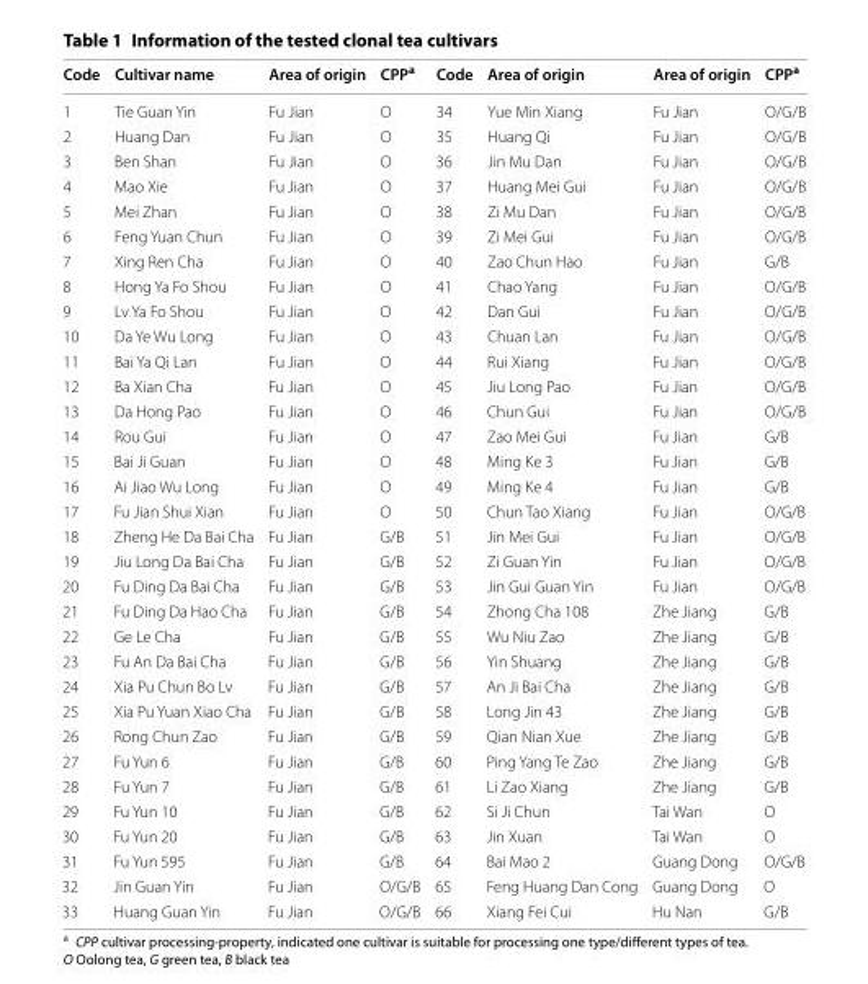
<table><thead><tr><td>Code</td><td>Cultivar name</td><td>Area of origin</td><td>CPP<sup>a</sup></td><td>Code</td><td>Area of origin</td><td>Area of origin</td><td>CPP<sup>a</sup></td></tr></thead><tbody><tr><td>1</td><td>Tie Guan Yin</td><td>Fu Jian</td><td>O</td><td>34</td><td>Yue Min Xiang</td><td>Fu Jian</td><td>O/G/B</td></tr><tr><td>2</td><td>Huang Dan</td><td>Fu Jian</td><td>O</td><td>35</td><td>Huang Qi</td><td>Fu Jian</td><td>O/G/B</td></tr><tr><td>3</td><td>Ben Shan</td><td>Fu Jian</td><td>O</td><td>36</td><td>Jin Mu Dan</td><td>Fu Jian</td><td>O/G/B</td></tr><tr><td>4</td><td>Mao Xie</td><td>Fu Jian</td><td>O</td><td>37</td><td>Huang Mei Gui</td><td>Fu Jian</td><td>O/G/B</td></tr><tr><td>5</td><td>Mei Zhan</td><td>Fu Jian</td><td>O</td><td>38</td><td>Zi Mu Dan</td><td>Fu Jian</td><td>O/G/B</td></tr><tr><td>6</td><td>Feng Yuan Chun</td><td>Fu Jian</td><td>O</td><td>39</td><td>Zi Mei Gui</td><td>Fu Jian</td><td>O/G/B</td></tr><tr><td>7</td><td>Xing Ren Cha</td><td>Fu Jian</td><td>O</td><td>40</td><td>Zao Chun Hao</td><td>Fu Jian</td><td>G/B</td></tr><tr><td>8</td><td>Hong Ya Fo Shou</td><td>Fu Jian</td><td>O</td><td>41</td><td>Chao Yang</td><td>Fu Jian</td><td>O/G/B</td></tr><tr><td>9</td><td>Lv Ya Fo Shou</td><td>Fu Jian</td><td>O</td><td>42</td><td>Dan Gui</td><td>Fu Jian</td><td>O/G/B</td></tr><tr><td>10</td><td>Da Ye Wu Long</td><td>Fu Jian</td><td>O</td><td>43</td><td>Chuan Lan</td><td>Fu Jian</td><td>O/G/B</td></tr><tr><td>11</td><td>Bai Ya Qi Lan</td><td>Fu Jian</td><td>O</td><td>44</td><td>Rui Xiang</td><td>Fu Jian</td><td>O/G/B</td></tr><tr><td>12</td><td>Ba Xian Cha</td><td>Fu Jian</td><td>O</td><td>45</td><td>Jiu Long Pao</td><td>Fu Jian</td><td>O/G/B</td></tr><tr><td>13</td><td>Da Hong Pao</td><td>Fu Jian</td><td>O</td><td>46</td><td>Chun Gui</td><td>Fu Jian</td><td>O/G/B</td></tr><tr><td>14</td><td>Rou Gui</td><td>Fu Jian</td><td>O</td><td>47</td><td>Zao Mei Gui</td><td>Fu Jian</td><td>G/B</td></tr><tr><td>15</td><td>Bai Ji Guan</td><td>Fu Jian</td><td>O</td><td>48</td><td>Ming Ke 3</td><td>Fu Jian</td><td>G/B</td></tr><tr><td>16</td><td>Ai Jiao Wu Long</td><td>Fu Jian</td><td>O</td><td>49</td><td>Ming Ke 4</td><td>Fu Jian</td><td>G/B</td></tr><tr><td>17</td><td>Fu Jian Shui Xian</td><td>Fu Jian</td><td>O</td><td>50</td><td>Chun Tao Xiang</td><td>Fu Jian</td><td>O/G/B</td></tr><tr><td>18</td><td>Zheng He Da Bai Cha</td><td>Fu Jian</td><td>G/B</td><td>51</td><td>Jin Mei Gui</td><td>Fu Jian</td><td>O/G/B</td></tr><tr><td>19</td><td>Jiu Long Da Bai Cha</td><td>Fu Jian</td><td>G/B</td><td>52</td><td>Zi Guan Yin</td><td>Fu Jian</td><td>O/G/B</td></tr><tr><td>20</td><td>Fu Ding Da Bai Cha</td><td>Fu Jian</td><td>G/B</td><td>53</td><td>Jin Gui Guan Yin</td><td>Fu Jian</td><td>O/G/B</td></tr><tr><td>21</td><td>Fu Ding Da Hao Cha</td><td>Fu Jian</td><td>G/B</td><td>54</td><td>Zhong Cha 108</td><td>Zhe Jiang</td><td>G/B</td></tr><tr><td>22</td><td>Ge Le Cha</td><td>Fu Jian</td><td>G/B</td><td>55</td><td>Wu Niu Zao</td><td>Zhe Jiang</td><td>G/B</td></tr><tr><td>23</td><td>Fu An Da Bai Cha</td><td>Fu Jian</td><td>G/B</td><td>56</td><td>Yin Shuang</td><td>Zhe Jiang</td><td>G/B</td></tr><tr><td>24</td><td>Xia Pu Chun Bo Lv</td><td>Fu Jian</td><td>G/B</td><td>57</td><td>An Ji Bai Cha</td><td>Zhe Jiang</td><td>G/B</td></tr><tr><td>25</td><td>Xia Pu Yuan Xiao Cha</td><td>Fu Jian</td><td>G/B</td><td>58</td><td>Long Jin 43</td><td>Zhe Jiang</td><td>G/B</td></tr><tr><td>26</td><td>Rong Chun Zao</td><td>Fu Jian</td><td>G/B</td><td>59</td><td>Qian Nian Xue</td><td>Zhe Jiang</td><td>G/B</td></tr><tr><td>27</td><td>Fu Yun 6</td><td>Fu Jian</td><td>G/B</td><td>60</td><td>Ping Yang Te Zao</td><td>Zhe Jiang</td><td>G/B</td></tr><tr><td>28</td><td>Fu Yun 7</td><td>Fu Jian</td><td>G/B</td><td>61</td><td>Li Zao Xiang</td><td>Zhe Jiang</td><td>G/B</td></tr><tr><td>29</td><td>Fu Yun 10</td><td>Fu Jian</td><td>G/B</td><td>62</td><td>Si Ji Chun</td><td>Tai Wan</td><td>O</td></tr><tr><td>30</td><td>Fu Yun 20</td><td>Fu Jian</td><td>G/B</td><td>63</td><td>Jin Xuan</td><td>Tai Wan</td><td>O</td></tr><tr><td>31</td><td>Fu Yun 595</td><td>Fu Jian</td><td>G/B</td><td>64</td><td>Bai Mao 2</td><td>Guang Dong</td><td>O/G/B</td></tr><tr><td>32</td><td>Jin Guan Yin</td><td>Fu Jian</td><td>O/G/B</td><td>65</td><td>Feng Huang Dan Cong</td><td>Guang Dong</td><td>O</td></tr><tr><td>33</td><td>Huang Guan Yin</td><td>Fu Jian</td><td>O/G/B</td><td>66</td><td>Xiang Fei Cui</td><td>Hu Nan</td><td>G/B</td></tr></tbody></table>